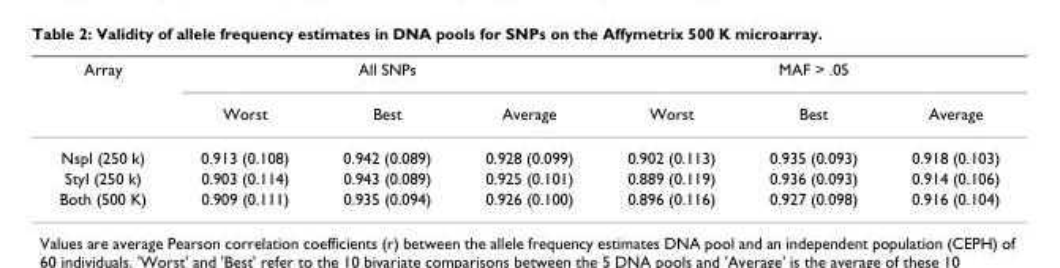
<table><thead><tr><td rowspan="2">Array</td><td colspan="3">All SNPs</td><td colspan="3">MAF &gt; .05</td></tr><tr><td>Worst</td><td>Best</td><td>Average</td><td>Worst</td><td>Best</td><td>Average</td></tr></thead><tbody><tr><td>NspI (250 k)</td><td>0.913 (0.108)</td><td>0.942 (0.089)</td><td>0.928 (0.099)</td><td>0.902 (0.113)</td><td>0.935 (0.093)</td><td>0.918 (0.103)</td></tr><tr><td>StyI (250 k)</td><td>0.903 (0.114)</td><td>0.943 (0.089)</td><td>0.925 (0.101)</td><td>0.889 (0.119)</td><td>0.936 (0.093)</td><td>0.914 (0.106)</td></tr><tr><td>Both (500 K)</td><td>0.909 (0.111)</td><td>0.935 (0.094)</td><td>0.926 (0.100)</td><td>0.896 (0.116)</td><td>0.927 (0.098)</td><td>0.916 (0.104)</td></tr></tbody></table>